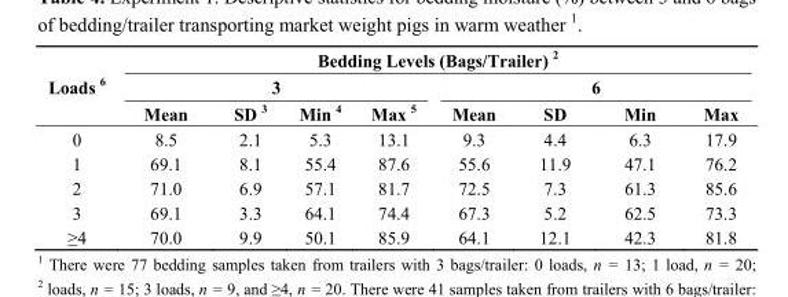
<table><thead><tr><td rowspan="3">Loads <sup>6</sup></td><td colspan="8">Bedding Levels (Bags/Trailer) <sup>2</sup></td></tr><tr><td colspan="4">3</td><td colspan="4">6</td></tr><tr><td>Mean</td><td>SD <sup>3</sup></td><td>Min <sup>4</sup></td><td>Max <sup>5</sup></td><td>Mean</td><td>SD</td><td>Min</td><td>Max</td></tr></thead><tbody><tr><td>0</td><td>8.5</td><td>2.1</td><td>5.3</td><td>13.1</td><td>9.3</td><td>4.4</td><td>6.3</td><td>17.9</td></tr><tr><td>1</td><td>69.1</td><td>8.1</td><td>55.4</td><td>87.6</td><td>55.6</td><td>11.9</td><td>47.1</td><td>76.2</td></tr><tr><td>2</td><td>71.0</td><td>6.9</td><td>57.1</td><td>81.7</td><td>72.5</td><td>7.3</td><td>61.3</td><td>85.6</td></tr><tr><td>3</td><td>69.1</td><td>3.3</td><td>64.1</td><td>74.4</td><td>67.3</td><td>5.2</td><td>62.5</td><td>73.3</td></tr><tr><td>≥4</td><td>70.0</td><td>9.9</td><td>50.1</td><td>85.9</td><td>64.1</td><td>12.1</td><td>42.3</td><td>81.8</td></tr></tbody></table>